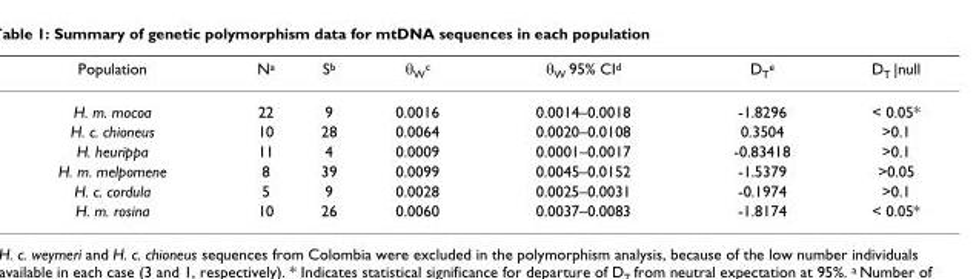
<table><thead><tr><td>Population</td><td>N<sup>a</sup></td><td>S<sup>b</sup></td><td>θ<sub>W</sub><sup>c</sup></td><td>θ<sub>W</sub> 95% CI<sup>d</sup></td><td>D<sub>T</sub><sup>e</sup></td><td>D<sub>T</sub> |null</td></tr></thead><tbody><tr><td>H. m. mocoa</td><td>22</td><td>9</td><td>0.0016</td><td>0.0014–0.0018</td><td>-1.8296</td><td>&lt; 0.05*</td></tr><tr><td>H. c. chioneus</td><td>10</td><td>28</td><td>0.0064</td><td>0.0020–0.0108</td><td>0.3504</td><td>&gt;0.1</td></tr><tr><td>H. heurippa</td><td>11</td><td>4</td><td>0.0009</td><td>0.0001–0.0017</td><td>-0.83418</td><td>&gt;0.1</td></tr><tr><td>H. m. melpomene</td><td>8</td><td>39</td><td>0.0099</td><td>0.0045–0.0152</td><td>-1.5379</td><td>&gt;0.05</td></tr><tr><td>H. c. cordula</td><td>5</td><td>9</td><td>0.0028</td><td>0.0025–0.0031</td><td>-0.1974</td><td>&gt;0.1</td></tr><tr><td>H. m. rosina</td><td>10</td><td>26</td><td>0.0060</td><td>0.0037–0.0083</td><td>-1.8174</td><td>&lt; 0.05*</td></tr></tbody></table>